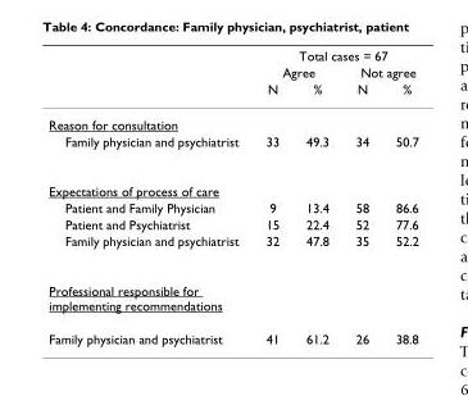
<table><thead><tr><td rowspan="3"></td><td colspan="4">Total cases = 67</td></tr><tr><td colspan="2">Agree</td><td colspan="2">Not agree</td></tr><tr><td>N</td><td>%</td><td>N</td><td>%</td></tr></thead><tbody><tr><td colspan="5">Reason for consultation</td></tr><tr><td>Family physician and psychiatrist</td><td>33</td><td>49.3</td><td>34</td><td>50.7</td></tr><tr><td colspan="5">Expectations of process of care</td></tr><tr><td>Patient and Family Physician</td><td>9</td><td>13.4</td><td>58</td><td>86.6</td></tr><tr><td>Patient and Psychiatrist</td><td>15</td><td>22.4</td><td>52</td><td>77.6</td></tr><tr><td>Family physician and psychiatrist</td><td>32</td><td>47.8</td><td>35</td><td>52.2</td></tr><tr><td colspan="5">Professional responsible for implementing recommendations</td></tr><tr><td>Family physician and psychiatrist</td><td>41</td><td>61.2</td><td>26</td><td>38.8</td></tr></tbody></table>